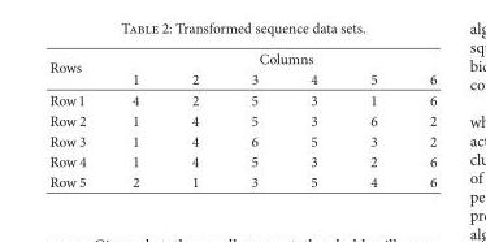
<table><thead><tr><td rowspan="2">Rows</td><td colspan="6">Columns</td></tr><tr><td>1</td><td>2</td><td>3</td><td>4</td><td>5</td><td>6</td></tr></thead><tbody><tr><td>Row 1</td><td>4</td><td>2</td><td>5</td><td>3</td><td>1</td><td>6</td></tr><tr><td>Row 2</td><td>1</td><td>4</td><td>5</td><td>3</td><td>6</td><td>2</td></tr><tr><td>Row 3</td><td>1</td><td>4</td><td>6</td><td>5</td><td>3</td><td>2</td></tr><tr><td>Row 4</td><td>1</td><td>4</td><td>5</td><td>3</td><td>2</td><td>6</td></tr><tr><td>Row 5</td><td>2</td><td>1</td><td>3</td><td>5</td><td>4</td><td>6</td></tr></tbody></table>